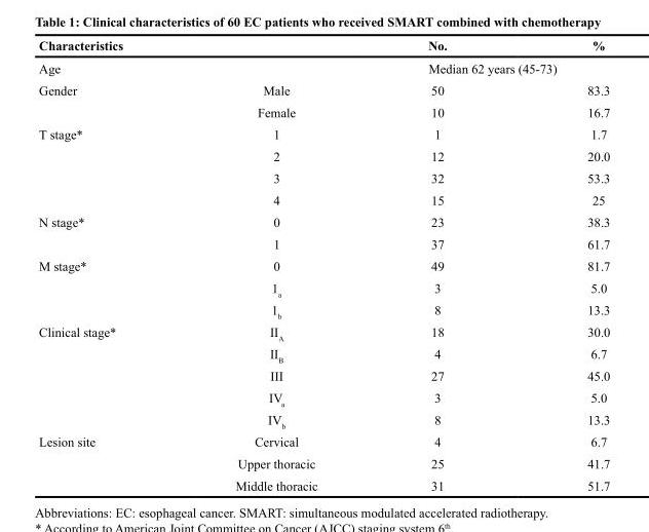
<table><thead><tr><td>Characteristics</td><td></td><td>No.</td><td>%</td></tr></thead><tbody><tr><td>Age</td><td></td><td>Median 62 years (45-73)</td><td></td></tr><tr><td rowspan="2">Gender</td><td>Male</td><td>50</td><td>83.3</td></tr><tr><td>Female</td><td>10</td><td>16.7</td></tr><tr><td rowspan="4">T stage*</td><td>1</td><td>1</td><td>1.7</td></tr><tr><td>2</td><td>12</td><td>20.0</td></tr><tr><td>3</td><td>32</td><td>53.3</td></tr><tr><td>4</td><td>15</td><td>25</td></tr><tr><td rowspan="2">N stage*</td><td>0</td><td>23</td><td>38.3</td></tr><tr><td>1</td><td>37</td><td>61.7</td></tr><tr><td rowspan="3">M stage*</td><td>0</td><td>49</td><td>81.7</td></tr><tr><td>1<sub>a</sub></td><td>3</td><td>5.0</td></tr><tr><td>1<sub>b</sub></td><td>8</td><td>13.3</td></tr><tr><td rowspan="5">Clinical stage*</td><td>II<sub>A</sub></td><td>18</td><td>30.0</td></tr><tr><td>II<sub>B</sub></td><td>4</td><td>6.7</td></tr><tr><td>III</td><td>27</td><td>45.0</td></tr><tr><td>IV<sub>a</sub></td><td>3</td><td>5.0</td></tr><tr><td>IV<sub>b</sub></td><td>8</td><td>13.3</td></tr><tr><td rowspan="3">Lesion site</td><td>Cervical</td><td>4</td><td>6.7</td></tr><tr><td>Upper thoracic</td><td>25</td><td>41.7</td></tr><tr><td>Middle thoracic</td><td>31</td><td>51.7</td></tr></tbody></table>